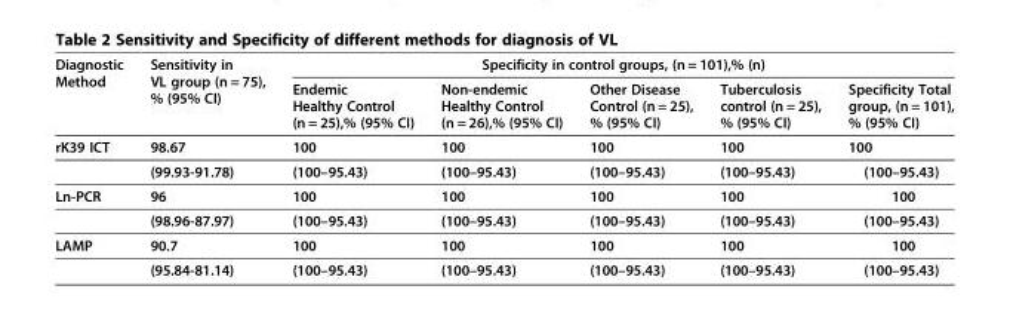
<table><thead><tr><td rowspan="2">Diagnostic Method</td><td rowspan="2">Sensitivity in VL group (n = 75), % (95% CI)</td><td colspan="5">Specificity in control groups, (n = 101),% (n)</td></tr><tr><td>Endemic Healthy Control (n = 25),% (95% CI)</td><td>Non-endemic Healthy Control (n = 26),% (95% CI)</td><td>Other Disease Control (n = 25), % (95% CI)</td><td>Tuberculosis control (n = 25), % (95% CI)</td><td>Specificity Total group, (n = 101), % (95% CI)</td></tr></thead><tbody><tr><td rowspan="2">rK39 ICT</td><td>98.67</td><td>100</td><td>100</td><td>100</td><td>100</td><td>100</td></tr><tr><td>(99.93-91.78)</td><td>(100–95.43)</td><td>(100–95.43)</td><td>(100–95.43)</td><td>(100–95.43)</td><td>(100–95.43)</td></tr><tr><td rowspan="2">Ln-PCR</td><td>96</td><td>100</td><td>100</td><td>100</td><td>100</td><td>100</td></tr><tr><td>(98.96-87.97)</td><td>(100–95.43)</td><td>(100–95.43)</td><td>(100–95.43)</td><td>(100–95.43)</td><td>(100–95.43)</td></tr><tr><td rowspan="2">LAMP</td><td>90.7</td><td>100</td><td>100</td><td>100</td><td>100</td><td>100</td></tr><tr><td>(95.84-81.14)</td><td>(100–95.43)</td><td>(100–95.43)</td><td>(100–95.43)</td><td>(100–95.43)</td><td>(100–95.43)</td></tr></tbody></table>